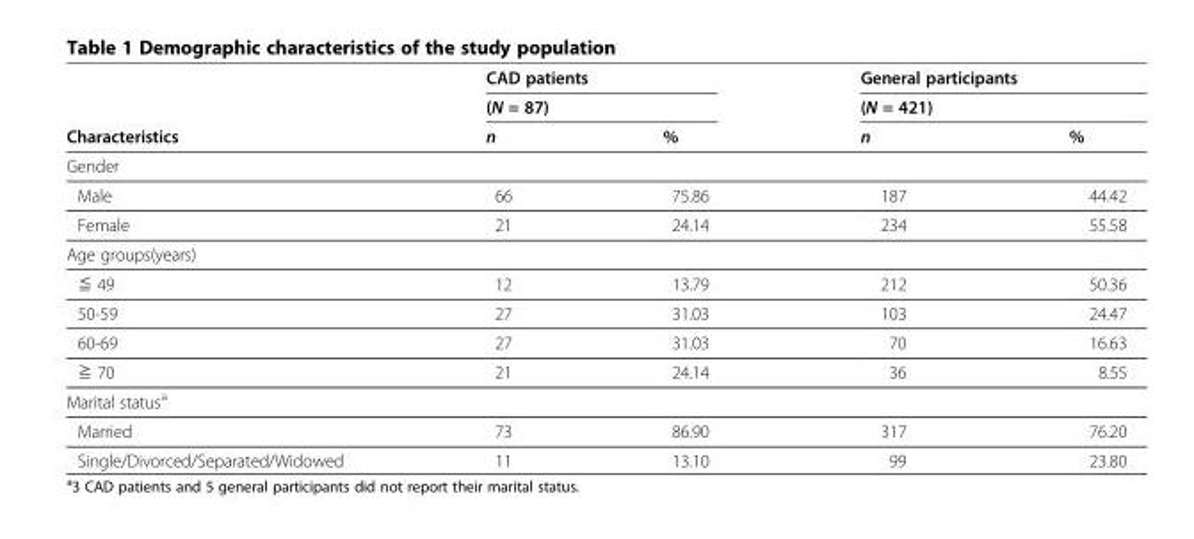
<table><thead><tr><td rowspan="3">Characteristics</td><td rowspan="2" colspan="2">CAD patients (N = 87)</td><td rowspan="2" colspan="2">General participants (N = 421)</td></tr><tr></tr><tr><td>n</td><td>%</td><td>n</td><td>%</td></tr></thead><tbody><tr><td colspan="5">Gender</td></tr><tr><td>Male</td><td>66</td><td>75.86</td><td>187</td><td>44.42</td></tr><tr><td>Female</td><td>21</td><td>24.14</td><td>234</td><td>55.58</td></tr><tr><td colspan="5">Age groups(years)</td></tr><tr><td>≦ 49</td><td>12</td><td>13.79</td><td>212</td><td>50.36</td></tr><tr><td>50-59</td><td>27</td><td>31.03</td><td>103</td><td>24.47</td></tr><tr><td>60-69</td><td>27</td><td>31.03</td><td>70</td><td>16.63</td></tr><tr><td>≧ 70</td><td>21</td><td>24.14</td><td>36</td><td>8.55</td></tr><tr><td colspan="5">Marital status<sup>a</sup></td></tr><tr><td>Married</td><td>73</td><td>86.90</td><td>317</td><td>76.20</td></tr><tr><td>Single/Divorced/Separated/Widowed</td><td>11</td><td>13.10</td><td>99</td><td>23.80</td></tr></tbody></table>